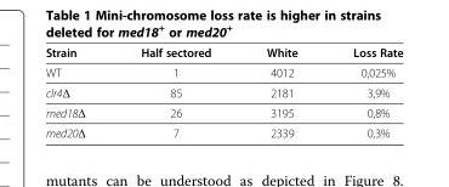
<table><thead><tr><td>Strain</td><td>Half sectored</td><td>White</td><td>Loss Rate</td></tr></thead><tbody><tr><td>WT</td><td>1</td><td>4012</td><td>0,025%</td></tr><tr><td>clr4Δ</td><td>85</td><td>2181</td><td>3,9%</td></tr><tr><td>med18Δ</td><td>26</td><td>3195</td><td>0,8%</td></tr><tr><td>med20Δ</td><td>7</td><td>2339</td><td>0,3%</td></tr></tbody></table>